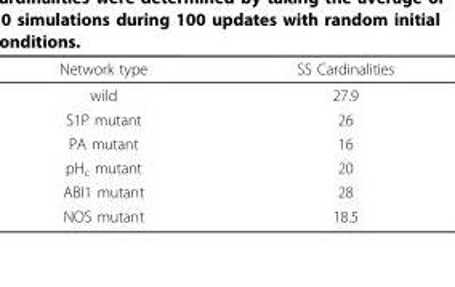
<table><thead><tr><td>Network type</td><td>SS Cardinalities</td></tr></thead><tbody><tr><td>wild</td><td>27.9</td></tr><tr><td>S1P mutant</td><td>26</td></tr><tr><td>PA mutant</td><td>16</td></tr><tr><td>pH<sub>c</sub> mutant</td><td>20</td></tr><tr><td>ABI1 mutant</td><td>28</td></tr><tr><td>NOS mutant</td><td>18.5</td></tr></tbody></table>